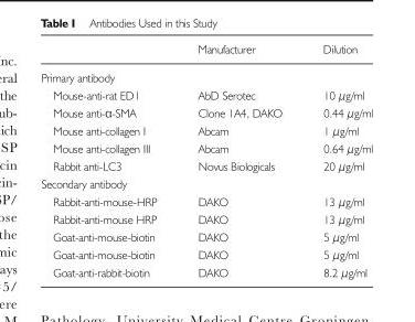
<table><thead><tr><td></td><td>Manufacturer</td><td>Dilution</td></tr></thead><tbody><tr><td colspan="3">Primary antibody</td></tr><tr><td>Mouse-anti-rat ED1</td><td>AbD Serotec</td><td>10 μg/ml</td></tr><tr><td>Mouse anti-α-SMA</td><td>Clone 1A4, DAKO</td><td>0.44 μg/ml</td></tr><tr><td>Mouse anti-collagen I</td><td>Abcam</td><td>1 μg/ml</td></tr><tr><td>Mouse anti-collagen III</td><td>Abcam</td><td>0.64 μg/ml</td></tr><tr><td>Rabbit anti-LC3</td><td>Novus Biologicals</td><td>20 μg/ml</td></tr><tr><td colspan="3">Secondary antibody</td></tr><tr><td>Rabbit-anti-mouse-HRP</td><td>DAKO</td><td>13 μg/ml</td></tr><tr><td>Rabbit-anti-mouse HRP</td><td>DAKO</td><td>13 μg/ml</td></tr><tr><td>Goat-anti-mouse-biotin</td><td>DAKO</td><td>5 μg/ml</td></tr><tr><td>Goat-anti-mouse-biotin</td><td>DAKO</td><td>5 μg/ml</td></tr><tr><td>Goat-anti-rabbit-biotin</td><td>DAKO</td><td>8.2 μg/ml</td></tr></tbody></table>